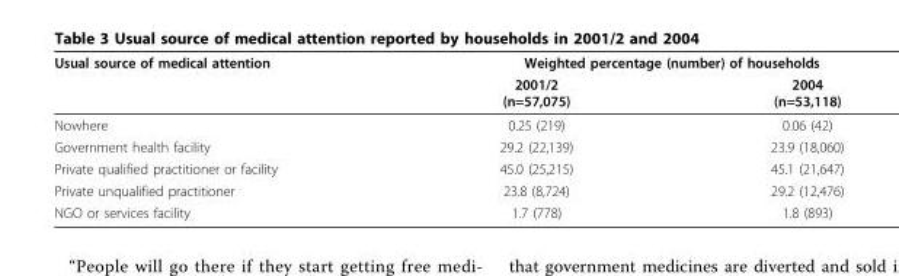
<table><thead><tr><td rowspan="2">Usual source of medical attention</td><td colspan="2">Weighted percentage (number) of households</td></tr><tr><td>2001/2 (n=57,075)</td><td>2004 (n=53,118)</td></tr></thead><tbody><tr><td>Nowhere</td><td>0.25 (219)</td><td>0.06 (42)</td></tr><tr><td>Government health facility</td><td>29.2 (22,139)</td><td>23.9 (18,060)</td></tr><tr><td>Private qualified practitioner or facility</td><td>45.0 (25,215)</td><td>45.1 (21,647)</td></tr><tr><td>Private unqualified practitioner</td><td>23.8 (8,724)</td><td>29.2 (12,476)</td></tr><tr><td>NGO or services facility</td><td>1.7 (778)</td><td>1.8 (893)</td></tr></tbody></table>